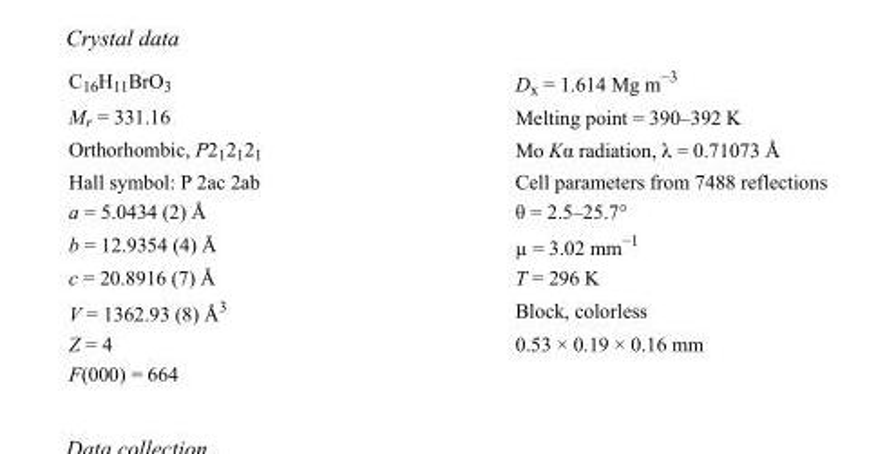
<table><tbody><tr><td>C<sub>16</sub>H<sub>11</sub>BrO<sub>3</sub></td><td>D<sub>x</sub> = 1.614 Mg m<sup>−3</sup></td></tr><tr><td>M<sub>r</sub> = 331.16</td><td>Melting point = 390–392 K</td></tr><tr><td>Orthorhombic, P2<sub>1</sub>2<sub>1</sub>2<sub>1</sub></td><td>Mo Kα radiation, λ = 0.71073 Å</td></tr><tr><td>Hall symbol: P 2ac 2ab</td><td>Cell parameters from 7488 reflections</td></tr><tr><td>a = 5.0434 (2) Å</td><td>θ = 2.5–25.7°</td></tr><tr><td>b = 12.9354 (4) Å</td><td>µ = 3.02 mm<sup>−1</sup></td></tr><tr><td>c = 20.8916 (7) Å</td><td>T = 296 K</td></tr><tr><td>V = 1362.93 (8) Å<sup>3</sup></td><td>Block, colorless</td></tr><tr><td>Z = 4</td><td>0.53 × 0.19 × 0.16 mm</td></tr><tr><td>F(000) = 664</td><td></td></tr></tbody></table>